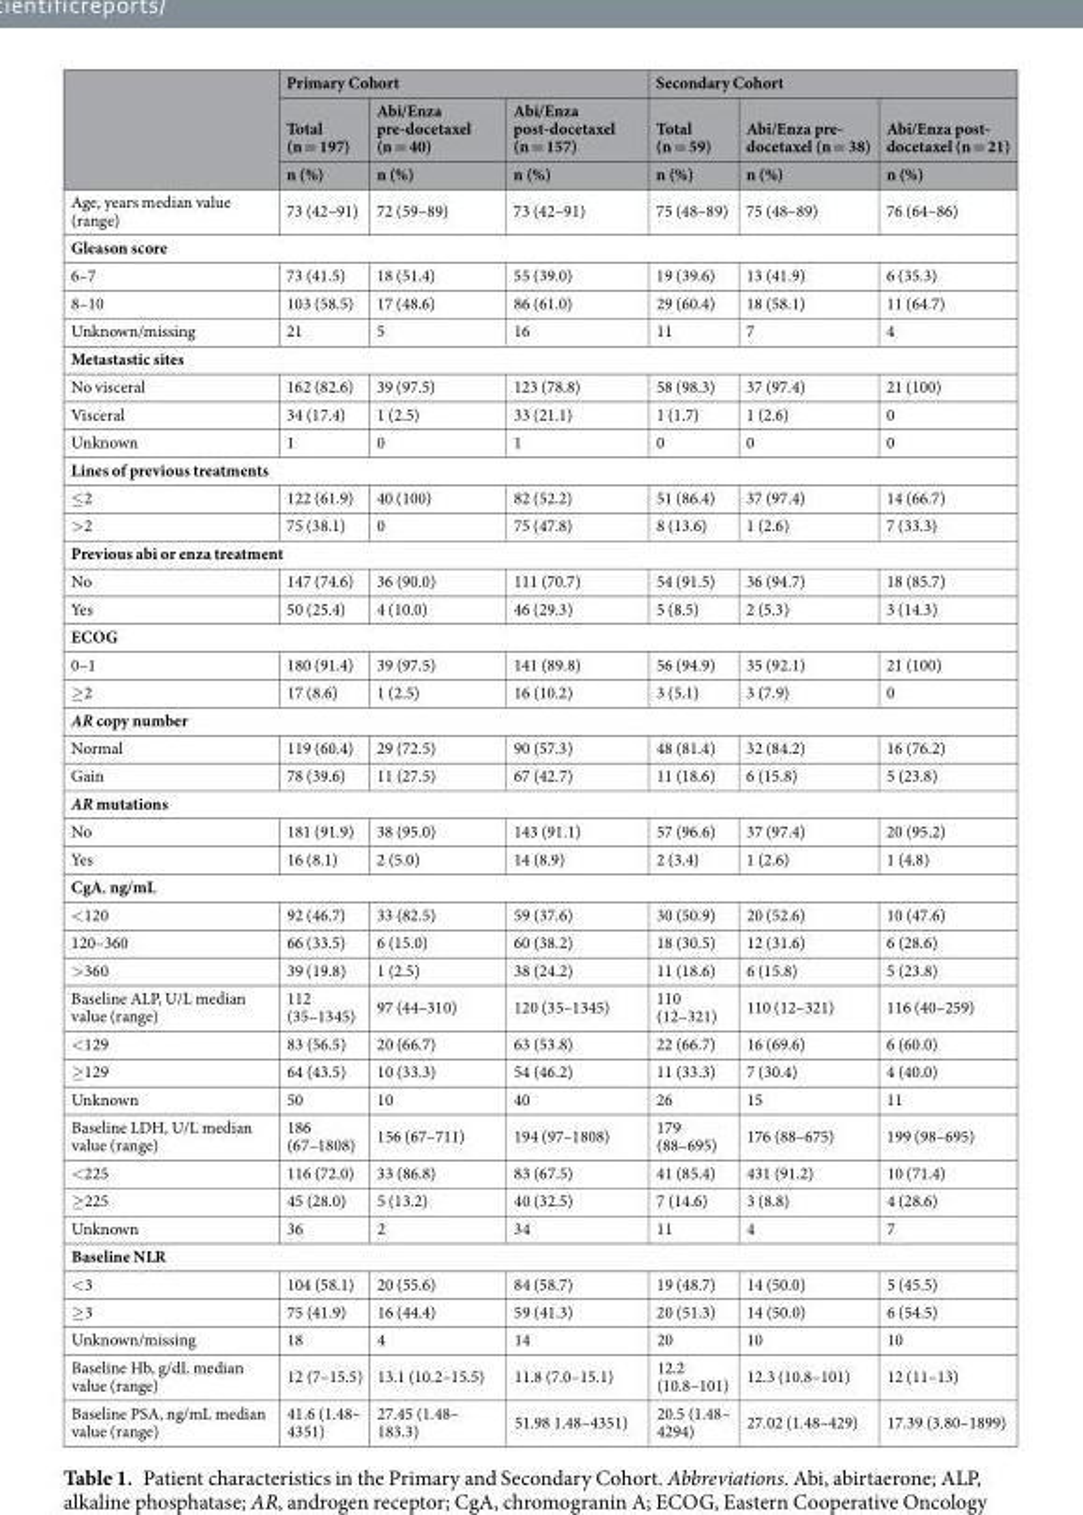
<table><thead><tr><td rowspan="3"></td><td colspan="3">Primary Cohort</td><td colspan="3">Secondary Cohort</td></tr><tr><td rowspan="2">Total (n = 197) n (%)</td><td rowspan="2">Abi/Enza pre-docetaxel (n = 40) n (%)</td><td rowspan="2">Abi/Enza post-docetaxel (n = 157) n (%)</td><td rowspan="2">Total (n = 59) n (%)</td><td rowspan="2">Abi/Enza pre- docetaxel (n = 38) n (%)</td><td rowspan="2">Abi/Enza post- docetaxel (n = 21) n (%)</td></tr><tr></tr></thead><tbody><tr><td>Age, years median value (range)</td><td>73 (42–91)</td><td>72 (59–89)</td><td>73 (42–91)</td><td>75 (48–89)</td><td>75 (48–89)</td><td>76 (64–86)</td></tr><tr><td colspan="7">Gleason score</td></tr><tr><td>6–7</td><td>73 (41.5)</td><td>18 (51.4)</td><td>55 (39.0)</td><td>19 (39.6)</td><td>13 (41.9)</td><td>6 (35.3)</td></tr><tr><td>8–10</td><td>103 (58.5)</td><td>17 (48.6)</td><td>86 (61.0)</td><td>29 (60.4)</td><td>18 (58.1)</td><td>11 (64.7)</td></tr><tr><td>Unknown/missing</td><td>21</td><td>5</td><td>16</td><td>11</td><td>7</td><td>4</td></tr><tr><td colspan="7">Metastastic sites</td></tr><tr><td>No visceral</td><td>162 (82.6)</td><td>39 (97.5)</td><td>123 (78.8)</td><td>58 (98.3)</td><td>37 (97.4)</td><td>21 (100)</td></tr><tr><td>Visceral</td><td>34 (17.4)</td><td>1 (2.5)</td><td>33 (21.1)</td><td>1 (1.7)</td><td>1 (2.6)</td><td>0</td></tr><tr><td>Unknown</td><td>1</td><td>0</td><td>1</td><td>0</td><td>0</td><td>0</td></tr><tr><td colspan="7">Lines of previous treatments</td></tr><tr><td>≤2</td><td>122 (61.9)</td><td>40 (100)</td><td>82 (52.2)</td><td>51 (86.4)</td><td>37 (97.4)</td><td>14 (66.7)</td></tr><tr><td>&gt;2</td><td>75 (38.1)</td><td>0</td><td>75 (47.8)</td><td>8 (13.6)</td><td>1 (2.6)</td><td>7 (33.3)</td></tr><tr><td colspan="7">Previous abi or enza treatment</td></tr><tr><td>No</td><td>147 (74.6)</td><td>36 (90.0)</td><td>111 (70.7)</td><td>54 (91.5)</td><td>36 (94.7)</td><td>18 (85.7)</td></tr><tr><td>Yes</td><td>50 (25.4)</td><td>4 (10.0)</td><td>46 (29.3)</td><td>5 (8.5)</td><td>2 (5.3)</td><td>3 (14.3)</td></tr><tr><td colspan="7">ECOG</td></tr><tr><td>0–1</td><td>180 (91.4)</td><td>39 (97.5)</td><td>141 (89.8)</td><td>56 (94.9)</td><td>35 (92.1)</td><td>21 (100)</td></tr><tr><td>≥2</td><td>17 (8.6)</td><td>1 (2.5)</td><td>16 (10.2)</td><td>3 (5.1)</td><td>3 (7.9)</td><td>0</td></tr><tr><td colspan="7">AR copy number</td></tr><tr><td>Normal</td><td>119 (60.4)</td><td>29 (72.5)</td><td>90 (57.3)</td><td>48 (81.4)</td><td>32 (84.2)</td><td>16 (76.2)</td></tr><tr><td>Gain</td><td>78 (39.6)</td><td>11 (27.5)</td><td>67 (42.7)</td><td>11 (18.6)</td><td>6 (15.8)</td><td>5 (23.8)</td></tr><tr><td colspan="7">AR mutations</td></tr><tr><td>No</td><td>181 (91.9)</td><td>38 (95.0)</td><td>143 (91.1)</td><td>57 (96.6)</td><td>37 (97.4)</td><td>20 (95.2)</td></tr><tr><td>Yes</td><td>16 (8.1)</td><td>2 (5.0)</td><td>14 (8.9)</td><td>2 (3.4)</td><td>1 (2.6)</td><td>1 (4.8)</td></tr><tr><td colspan="7">CgA, ng/mL</td></tr><tr><td>&lt;120</td><td>92 (46.7)</td><td>33 (82.5)</td><td>59 (37.6)</td><td>30 (50.9)</td><td>20 (52.6)</td><td>10 (47.6)</td></tr><tr><td>120–360</td><td>66 (33.5)</td><td>6 (15.0)</td><td>60 (38.2)</td><td>18 (30.5)</td><td>12 (31.6)</td><td>6 (28.6)</td></tr><tr><td>&gt;360</td><td>39 (19.8)</td><td>1 (2.5)</td><td>38 (24.2)</td><td>11 (18.6)</td><td>6 (15.8)</td><td>5 (23.8)</td></tr><tr><td>Baseline ALP, U/L median value (range)</td><td>112 (35–1345)</td><td>97 (44–310)</td><td>120 (35–1345)</td><td>110 (12–321)</td><td>110 (12–321)</td><td>116 (40–259)</td></tr><tr><td>&lt;129</td><td>83 (56.5)</td><td>20 (66.7)</td><td>63 (53.8)</td><td>22 (66.7)</td><td>16 (69.6)</td><td>6 (60.0)</td></tr><tr><td>≥129</td><td>64 (43.5)</td><td>10 (33.3)</td><td>54 (46.2)</td><td>11 (33.3)</td><td>7 (30.4)</td><td>4 (40.0)</td></tr><tr><td>Unknown</td><td>50</td><td>10</td><td>40</td><td>26</td><td>15</td><td>11</td></tr><tr><td>Baseline LDH, U/L median value (range)</td><td>186 (67–1808)</td><td>156 (67–711)</td><td>194 (97–1808)</td><td>179 (88–695)</td><td>176 (88–675)</td><td>199 (98–695)</td></tr><tr><td>&lt;225</td><td>116 (72.0)</td><td>33 (86.8)</td><td>83 (67.5)</td><td>41 (85.4)</td><td>431 (91.2)</td><td>10 (71.4)</td></tr><tr><td>≥225</td><td>45 (28.0)</td><td>5 (13.2)</td><td>40 (32.5)</td><td>7 (14.6)</td><td>3 (8.8)</td><td>4 (28.6)</td></tr><tr><td>Unknown</td><td>36</td><td>2</td><td>34</td><td>11</td><td>4</td><td>7</td></tr><tr><td colspan="7">Baseline NLR</td></tr><tr><td>&lt;3</td><td>104 (58.1)</td><td>20 (55.6)</td><td>84 (58.7)</td><td>19 (48.7)</td><td>14 (50.0)</td><td>5 (45.5)</td></tr><tr><td>≥3</td><td>75 (41.9)</td><td>16 (44.4)</td><td>59 (41.3)</td><td>20 (51.3)</td><td>14 (50.0)</td><td>6 (54.5)</td></tr><tr><td>Unknown/missing</td><td>18</td><td>4</td><td>14</td><td>20</td><td>10</td><td>10</td></tr><tr><td>Baseline Hb, g/dL median value (range)</td><td>12 (7–15.5)</td><td>13.1 (10.2–15.5)</td><td>11.8 (7.0–15.1)</td><td>12.2 (10.8–101)</td><td>12.3 (10.8–101)</td><td>12 (11–13)</td></tr><tr><td>Baseline PSA, ng/mL median value (range)</td><td>41.6 (1.48– 4351)</td><td>27.45 (1.48– 183.3)</td><td>51.98 1.48–4351)</td><td>20.5 (1.48– 4294)</td><td>27.02 (1.48–429)</td><td>17.39 (3.80–1899)</td></tr></tbody></table>